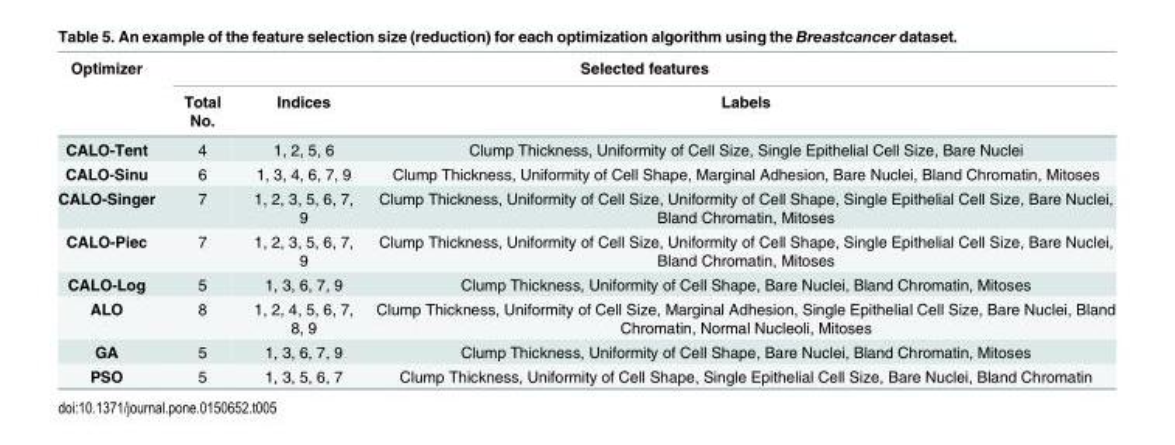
<table><thead><tr><td rowspan="2">Optimizer</td><td colspan="3">Selected features</td></tr><tr><td>Total No.</td><td>Indices</td><td>Labels</td></tr></thead><tbody><tr><td>CALO-Tent</td><td>4</td><td>1, 2, 5, 6</td><td>Clump Thickness, Uniformity of Cell Size, Single Epithelial Cell Size, Bare Nuclei</td></tr><tr><td>CALO-Sinu</td><td>6</td><td>1, 3, 4, 6, 7, 9</td><td>Clump Thickness, Uniformity of Cell Shape, Marginal Adhesion, Bare Nuclei, Bland Chromatin, Mitoses</td></tr><tr><td>CALO-Singer</td><td>7</td><td>1, 2, 3, 5, 6, 7, 9</td><td>Clump Thickness, Uniformity of Cell Size, Uniformity of Cell Shape, Single Epithelial Cell Size, Bare Nuclei, Bland Chromatin, Mitoses</td></tr><tr><td>CALO-Piec</td><td>7</td><td>1, 2, 3, 5, 6, 7, 9</td><td>Clump Thickness, Uniformity of Cell Size, Uniformity of Cell Shape, Single Epithelial Cell Size, Bare Nuclei, Bland Chromatin, Mitoses</td></tr><tr><td>CALO-Log</td><td>5</td><td>1, 3, 6, 7, 9</td><td>Clump Thickness, Uniformity of Cell Shape, Bare Nuclei, Bland Chromatin, Mitoses</td></tr><tr><td>ALO</td><td>8</td><td>1, 2, 4, 5, 6, 7, 8, 9</td><td>Clump Thickness, Uniformity of Cell Size, Marginal Adhesion, Single Epithelial Cell Size, Bare Nuclei, Bland Chromatin, Normal Nucleoli, Mitoses</td></tr><tr><td>GA</td><td>5</td><td>1, 3, 6, 7, 9</td><td>Clump Thickness, Uniformity of Cell Shape, Bare Nuclei, Bland Chromatin, Mitoses</td></tr><tr><td>PSO</td><td>5</td><td>1, 3, 5, 6, 7</td><td>Clump Thickness, Uniformity of Cell Shape, Single Epithelial Cell Size, Bare Nuclei, Bland Chromatin</td></tr></tbody></table>